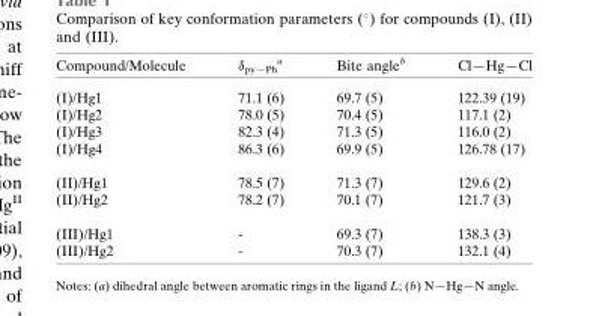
<table><thead><tr><td>Compound/Molecule</td><td>δpy—Ph a</td><td>Bite angleb</td><td>Cl—Hg—Cl</td></tr></thead><tbody><tr><td>(I)/Hg1</td><td>71.1 (6)</td><td>69.7 (5)</td><td>122.39 (19)</td></tr><tr><td>(I)/Hg2</td><td>78.0 (5)</td><td>70.4 (5)</td><td>117.1 (2)</td></tr><tr><td>(I)/Hg3</td><td>82.3 (4)</td><td>71.3 (5)</td><td>116.0 (2)</td></tr><tr><td>(I)/Hg4</td><td>86.3 (6)</td><td>69.9 (5)</td><td>126.78 (17)</td></tr><tr><td>(II)/Hg1</td><td>78.5 (7)</td><td>71.3 (7)</td><td>129.6 (2)</td></tr><tr><td>(II)/Hg2</td><td>78.2 (7)</td><td>70.1 (7)</td><td>121.7 (3)</td></tr><tr><td>(III)/Hg1</td><td>-</td><td>69.3 (7)</td><td>138.3 (3)</td></tr><tr><td>(III)/Hg2</td><td>-</td><td>70.3 (7)</td><td>132.1 (4)</td></tr></tbody></table>